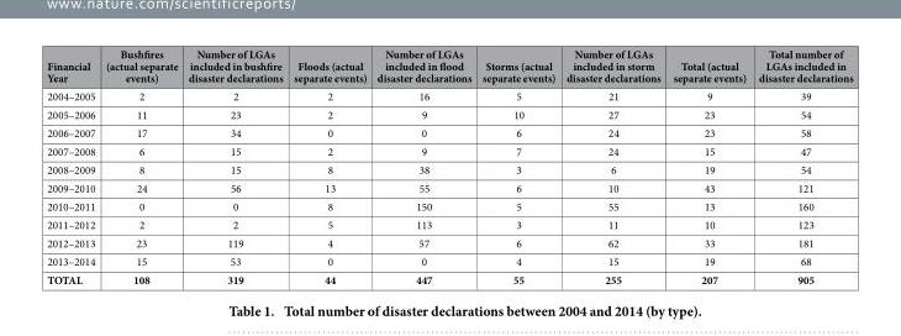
<table><thead><tr><td>Financial Year</td><td>Bushfires (actual separate events)</td><td>Number of LGAs included in bushfire disaster declarations</td><td>Floods (actual separate events)</td><td>Number of LGAs included in flood disaster declarations</td><td>Storms (actual separate events)</td><td>Number of LGAs included in storm disaster declarations</td><td>Total (actual separate events)</td><td>Total number of LGAs included in disaster declarations</td></tr></thead><tbody><tr><td>2004–2005</td><td>2</td><td>2</td><td>2</td><td>16</td><td>5</td><td>21</td><td>9</td><td>39</td></tr><tr><td>2005–2006</td><td>11</td><td>23</td><td>2</td><td>9</td><td>10</td><td>27</td><td>23</td><td>54</td></tr><tr><td>2006–2007</td><td>17</td><td>34</td><td>0</td><td>0</td><td>6</td><td>24</td><td>23</td><td>58</td></tr><tr><td>2007–2008</td><td>6</td><td>15</td><td>2</td><td>9</td><td>7</td><td>24</td><td>15</td><td>47</td></tr><tr><td>2008–2009</td><td>8</td><td>15</td><td>8</td><td>38</td><td>3</td><td>6</td><td>19</td><td>54</td></tr><tr><td>2009–2010</td><td>24</td><td>56</td><td>13</td><td>55</td><td>6</td><td>10</td><td>43</td><td>121</td></tr><tr><td>2010–2011</td><td>0</td><td>0</td><td>8</td><td>150</td><td>5</td><td>55</td><td>13</td><td>160</td></tr><tr><td>2011–2012</td><td>2</td><td>2</td><td>5</td><td>113</td><td>3</td><td>11</td><td>10</td><td>123</td></tr><tr><td>2012–2013</td><td>23</td><td>119</td><td>4</td><td>57</td><td>6</td><td>62</td><td>33</td><td>181</td></tr><tr><td>2013–2014</td><td>15</td><td>53</td><td>0</td><td>0</td><td>4</td><td>15</td><td>19</td><td>68</td></tr><tr><td>TOTAL</td><td>108</td><td>319</td><td>44</td><td>447</td><td>55</td><td>255</td><td>207</td><td>905</td></tr></tbody></table>